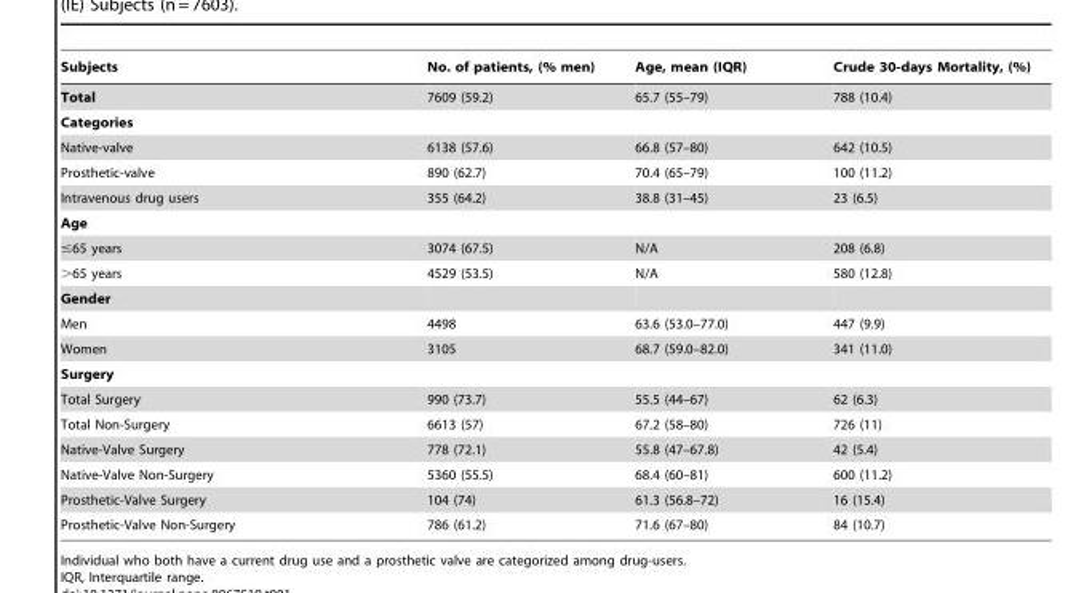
<table><thead><tr><td>Subjects</td><td>No. of patients, (% men)</td><td>Age, mean (IQR)</td><td>Crude 30-days Mortality, (%)</td></tr></thead><tbody><tr><td>Total</td><td>7609 (59.2)</td><td>65.7 (55–79)</td><td>788 (10.4)</td></tr><tr><td colspan="4">Categories</td></tr><tr><td>Native-valve</td><td>6138 (57.6)</td><td>66.8 (57–80)</td><td>642 (10.5)</td></tr><tr><td>Prosthetic-valve</td><td>890 (62.7)</td><td>70.4 (65–79)</td><td>100 (11.2)</td></tr><tr><td>Intravenous drug users</td><td>355 (64.2)</td><td>38.8 (31–45)</td><td>23 (6.5)</td></tr><tr><td colspan="4">Age</td></tr><tr><td>≤65 years</td><td>3074 (67.5)</td><td>N/A</td><td>208 (6.8)</td></tr><tr><td>&gt;65 years</td><td>4529 (53.5)</td><td>N/A</td><td>580 (12.8)</td></tr><tr><td colspan="4">Gender</td></tr><tr><td>Men</td><td>4498</td><td>63.6 (53.0–77.0)</td><td>447 (9.9)</td></tr><tr><td>Women</td><td>3105</td><td>68.7 (59.0–82.0)</td><td>341 (11.0)</td></tr><tr><td colspan="4">Surgery</td></tr><tr><td>Total Surgery</td><td>990 (73.7)</td><td>55.5 (44–67)</td><td>62 (6.3)</td></tr><tr><td>Total Non-Surgery</td><td>6613 (57)</td><td>67.2 (58–80)</td><td>726 (11)</td></tr><tr><td>Native-Valve Surgery</td><td>778 (72.1)</td><td>55.8 (47–67.8)</td><td>42 (5.4)</td></tr><tr><td>Native-Valve Non-Surgery</td><td>5360 (55.5)</td><td>68.4 (60–81)</td><td>600 (11.2)</td></tr><tr><td>Prosthetic-Valve Surgery</td><td>104 (74)</td><td>61.3 (56.8–72)</td><td>16 (15.4)</td></tr><tr><td>Prosthetic-Valve Non-Surgery</td><td>786 (61.2)</td><td>71.6 (67–80)</td><td>84 (10.7)</td></tr></tbody></table>